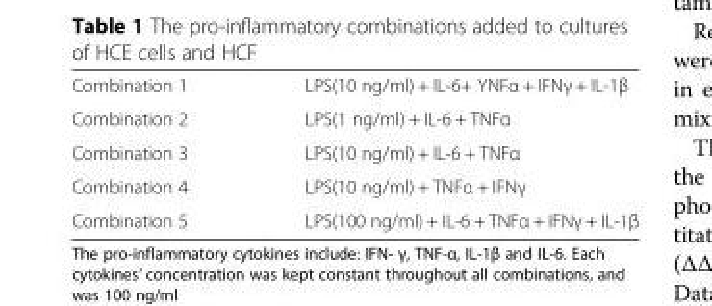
<table><tbody><tr><td>Combination 1</td><td>LPS(10 ng/ml) + IL-6+ YNFα + IFNγ + IL-1β</td></tr><tr><td>Combination 2</td><td>LPS(1 ng/ml) + IL-6 + TNFα</td></tr><tr><td>Combination 3</td><td>LPS(10 ng/ml) + IL-6 + TNFα</td></tr><tr><td>Combination 4</td><td>LPS(10 ng/ml) + TNFα + IFNγ</td></tr><tr><td>Combination 5</td><td>LPS(100 ng/ml) + IL-6 + TNFα + IFNγ + IL-1β</td></tr></tbody></table>